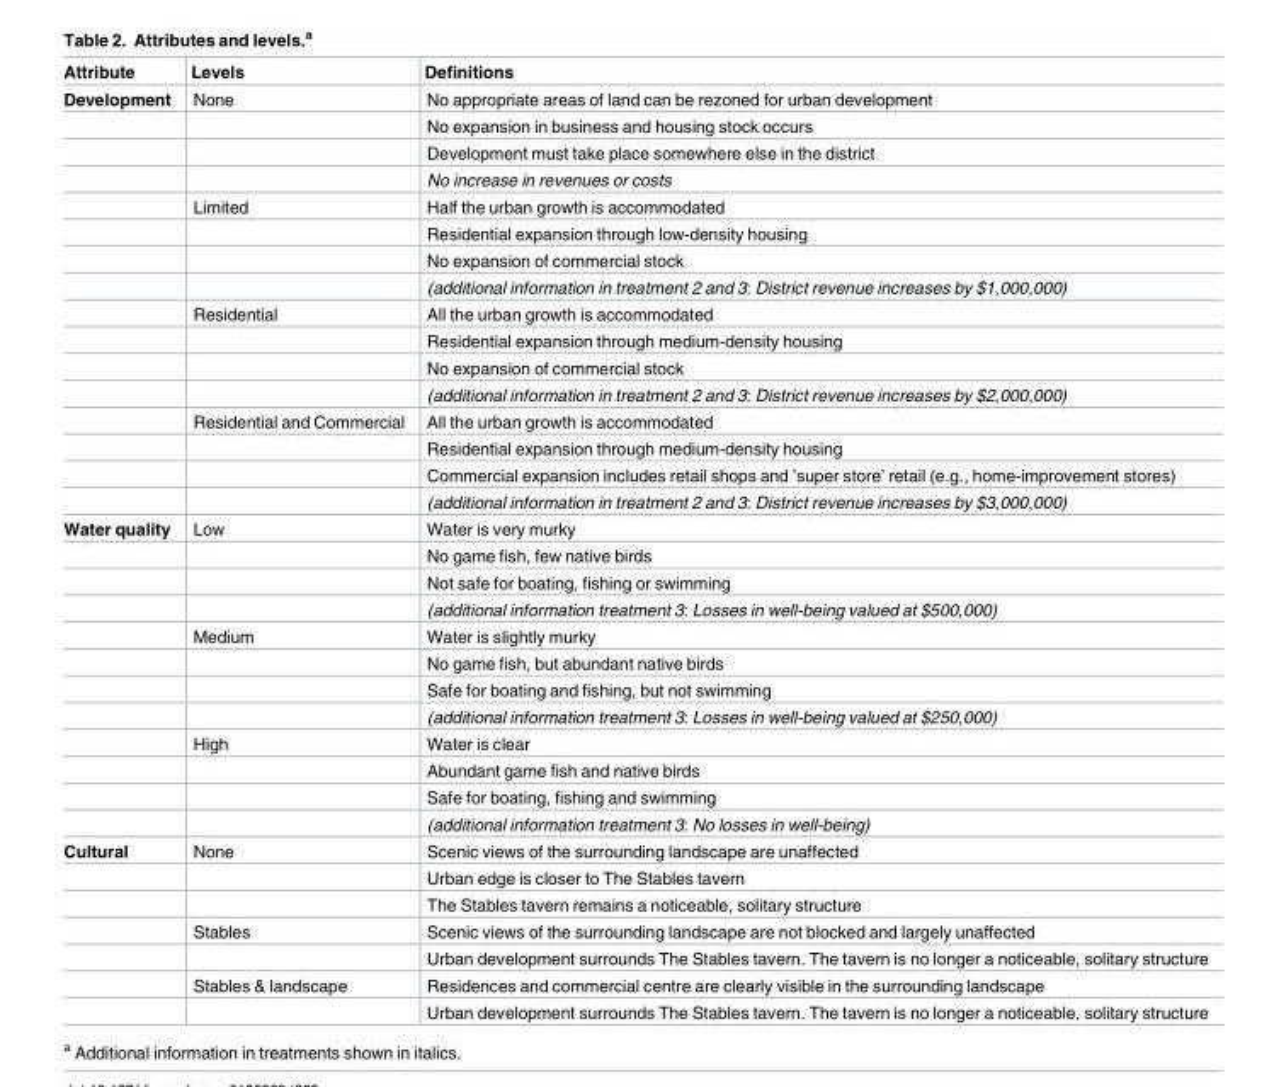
<table><thead><tr><td>Attribute</td><td>Levels</td><td>Definitions</td></tr></thead><tbody><tr><td rowspan="16">Development</td><td>None</td><td>No appropriate areas of land can be rezoned for urban development</td></tr><tr><td></td><td>No expansion in business and housing stock occurs</td></tr><tr><td></td><td>Development must take place somewhere else in the district</td></tr><tr><td></td><td>No increase in revenues or costs</td></tr><tr><td>Limited</td><td>Half the urban growth is accommodated</td></tr><tr><td></td><td>Residential expansion through low-density housing</td></tr><tr><td></td><td>No expansion of commercial stock</td></tr><tr><td></td><td>(additional information in treatment 2 and 3: District revenue increases by $1,000,000)</td></tr><tr><td>Residential</td><td>All the urban growth is accommodated</td></tr><tr><td></td><td>Residential expansion through medium-density housing</td></tr><tr><td></td><td>No expansion of commercial stock</td></tr><tr><td></td><td>(additional information in treatment 2 and 3: District revenue increases by $2,000,000)</td></tr><tr><td>Residential and Commercial</td><td>All the urban growth is accommodated</td></tr><tr><td></td><td>Residential expansion through medium-density housing</td></tr><tr><td></td><td>Commercial expansion includes retail shops and ’super store’ retail (e.g., home-improvement stores)</td></tr><tr><td></td><td>(additional information in treatment 2 and 3: District revenue increases by $3,000,000)</td></tr><tr><td rowspan="12">Water quality</td><td>Low</td><td>Water is very murky</td></tr><tr><td></td><td>No game fish, few native birds</td></tr><tr><td></td><td>Not safe for boating, fishing or swimming</td></tr><tr><td></td><td>(additional information treatment 3: Losses in well-being valued at $500,000)</td></tr><tr><td>Medium</td><td>Water is slightly murky</td></tr><tr><td></td><td>No game fish, but abundant native birds</td></tr><tr><td></td><td>Safe for boating and fishing, but not swimming</td></tr><tr><td></td><td>(additional information treatment 3: Losses in well-being valued at $250,000)</td></tr><tr><td>High</td><td>Water is clear</td></tr><tr><td></td><td>Abundant game fish and native birds</td></tr><tr><td></td><td>Safe for boating, fishing and swimming</td></tr><tr><td></td><td>(additional information treatment 3: No losses in well-being)</td></tr><tr><td rowspan="7">Cultural</td><td>None</td><td>Scenic views of the surrounding landscape are unaffected</td></tr><tr><td></td><td>Urban edge is closer to The Stables tavern</td></tr><tr><td></td><td>The Stables tavern remains a noticeable, solitary structure</td></tr><tr><td>Stables</td><td>Scenic views of the surrounding landscape are not blocked and largely unaffected</td></tr><tr><td></td><td>Urban development surrounds The Stables tavern. The tavern is no longer a noticeable, solitary structure</td></tr><tr><td>Stables &amp; landscape</td><td>Residences and commercial centre are clearly visible in the surrounding landscape</td></tr><tr><td></td><td>Urban development surrounds The Stables tavern. The tavern is no longer a noticeable, solitary structure</td></tr></tbody></table>